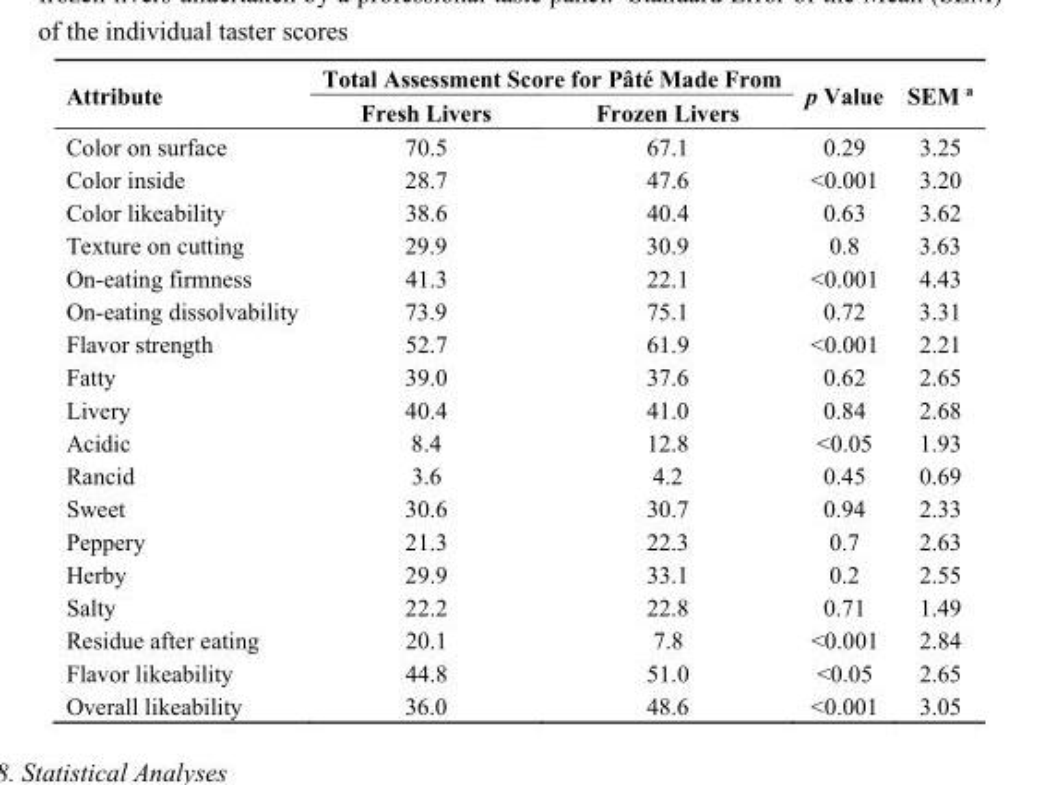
<table><thead><tr><td rowspan="2">Attribute</td><td colspan="2">Total Assessment Score for Pâté Made From</td><td rowspan="2">p Value</td><td rowspan="2">SEM <sup>a</sup></td></tr><tr><td>Fresh Livers</td><td>Frozen Livers</td></tr></thead><tbody><tr><td>Color on surface</td><td>70.5</td><td>67.1</td><td>0.29</td><td>3.25</td></tr><tr><td>Color inside</td><td>28.7</td><td>47.6</td><td>&lt;0.001</td><td>3.20</td></tr><tr><td>Color likeability</td><td>38.6</td><td>40.4</td><td>0.63</td><td>3.62</td></tr><tr><td>Texture on cutting</td><td>29.9</td><td>30.9</td><td>0.8</td><td>3.63</td></tr><tr><td>On-eating firmness</td><td>41.3</td><td>22.1</td><td>&lt;0.001</td><td>4.43</td></tr><tr><td>On-eating dissolvability</td><td>73.9</td><td>75.1</td><td>0.72</td><td>3.31</td></tr><tr><td>Flavor strength</td><td>52.7</td><td>61.9</td><td>&lt;0.001</td><td>2.21</td></tr><tr><td>Fatty</td><td>39.0</td><td>37.6</td><td>0.62</td><td>2.65</td></tr><tr><td>Livery</td><td>40.4</td><td>41.0</td><td>0.84</td><td>2.68</td></tr><tr><td>Acidic</td><td>8.4</td><td>12.8</td><td>&lt;0.05</td><td>1.93</td></tr><tr><td>Rancid</td><td>3.6</td><td>4.2</td><td>0.45</td><td>0.69</td></tr><tr><td>Sweet</td><td>30.6</td><td>30.7</td><td>0.94</td><td>2.33</td></tr><tr><td>Peppery</td><td>21.3</td><td>22.3</td><td>0.7</td><td>2.63</td></tr><tr><td>Herby</td><td>29.9</td><td>33.1</td><td>0.2</td><td>2.55</td></tr><tr><td>Salty</td><td>22.2</td><td>22.8</td><td>0.71</td><td>1.49</td></tr><tr><td>Residue after eating</td><td>20.1</td><td>7.8</td><td>&lt;0.001</td><td>2.84</td></tr><tr><td>Flavor likeability</td><td>44.8</td><td>51.0</td><td>&lt;0.05</td><td>2.65</td></tr><tr><td>Overall likeability</td><td>36.0</td><td>48.6</td><td>&lt;0.001</td><td>3.05</td></tr></tbody></table>